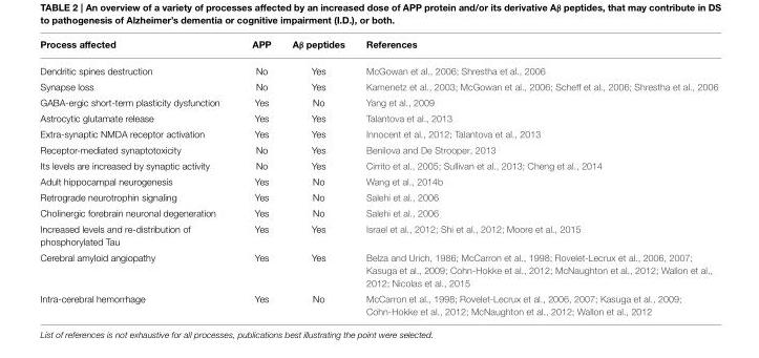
<table><thead><tr><td>Process affected</td><td>APP</td><td>Aβ peptides</td><td>References</td></tr></thead><tbody><tr><td>Dendritic spines destruction</td><td>No</td><td>Yes</td><td>McGowan et al., 2006; Shrestha et al., 2006</td></tr><tr><td>Synapse loss</td><td>No</td><td>Yes</td><td>Kamenetz et al., 2003; McGowan et al., 2006; Scheff et al., 2006; Shrestha et al., 2006</td></tr><tr><td>GABA-ergic short-term plasticity dysfunction</td><td>Yes</td><td>No</td><td>Yang et al., 2009</td></tr><tr><td>Astrocytic glutamate release</td><td>Yes</td><td>Yes</td><td>Talantova et al., 2013</td></tr><tr><td>Extra-synaptic NMDA receptor activation</td><td>Yes</td><td>Yes</td><td>Innocent et al., 2012; Talantova et al., 2013</td></tr><tr><td>Receptor-mediated synaptotoxicity</td><td>No</td><td>Yes</td><td>Benilova and De Strooper, 2013</td></tr><tr><td>Its levels are increased by synaptic activity</td><td>No</td><td>Yes</td><td>Cirrito et al., 2005; Sullivan et al., 2013; Cheng et al., 2014</td></tr><tr><td>Adult hippocampal neurogenesis</td><td>Yes</td><td>No</td><td>Wang et al., 2014b</td></tr><tr><td>Retrograde neurotrophin signaling</td><td>Yes</td><td>No</td><td>Salehi et al., 2006</td></tr><tr><td>Cholinergic forebrain neuronal degeneration</td><td>Yes</td><td>No</td><td>Salehi et al., 2006</td></tr><tr><td>Increased levels and re-distribution of phosphorylated Tau</td><td>Yes</td><td>Yes</td><td>Israel et al., 2012; Shi et al., 2012; Moore et al., 2015</td></tr><tr><td>Cerebral amyloid angiopathy</td><td>Yes</td><td>Yes</td><td>Belza and Urich, 1986; McCarron et al., 1998; Rovelet-Lecrux et al., 2006, 2007; Kasuga et al., 2009; Cohn-Hokke et al., 2012; McNaughton et al., 2012; Wallon et al., 2012; Nicolas et al., 2015</td></tr><tr><td>Intra-cerebral hemorrhage</td><td>Yes</td><td>No</td><td>McCarron et al., 1998; Rovelet-Lecrux et al., 2006, 2007; Kasuga et al., 2009; Cohn-Hokke et al., 2012; McNaughton et al., 2012; Wallon et al., 2012</td></tr></tbody></table>